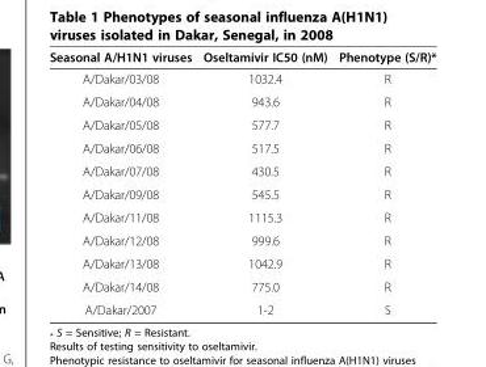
<table><thead><tr><td>Seasonal A/H1N1 viruses</td><td>Oseltamivir IC50 (nM)</td><td>Phenotype (S/R)*</td></tr></thead><tbody><tr><td>A/Dakar/03/08</td><td>1032.4</td><td>R</td></tr><tr><td>A/Dakar/04/08</td><td>943.6</td><td>R</td></tr><tr><td>A/Dakar/05/08</td><td>577.7</td><td>R</td></tr><tr><td>A/Dakar/06/08</td><td>517.5</td><td>R</td></tr><tr><td>A/Dakar/07/08</td><td>430.5</td><td>R</td></tr><tr><td>A/Dakar/09/08</td><td>545.5</td><td>R</td></tr><tr><td>A/Dakar/11/08</td><td>1115.3</td><td>R</td></tr><tr><td>A/Dakar/12/08</td><td>999.6</td><td>R</td></tr><tr><td>A/Dakar/13/08</td><td>1042.9</td><td>R</td></tr><tr><td>A/Dakar/14/08</td><td>775.0</td><td>R</td></tr><tr><td>A/Dakar/2007</td><td>1-2</td><td>S</td></tr></tbody></table>